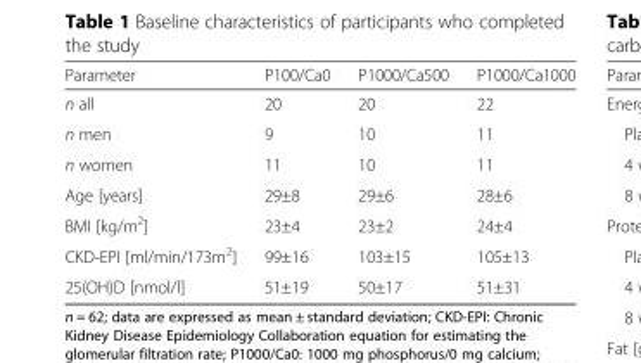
<table><thead><tr><td>Parameter</td><td>P100/Ca0</td><td>P1000/Ca500</td><td>P1000/Ca1000</td></tr></thead><tbody><tr><td>n all</td><td>20</td><td>20</td><td>22</td></tr><tr><td>n men</td><td>9</td><td>10</td><td>11</td></tr><tr><td>n women</td><td>11</td><td>10</td><td>11</td></tr><tr><td>Age [years]</td><td>29±8</td><td>29±6</td><td>28±6</td></tr><tr><td>BMI [kg/m<sup>2</sup>]</td><td>23±4</td><td>23±2</td><td>24±4</td></tr><tr><td>CKD-EPI [ml/min/173m<sup>2</sup>]</td><td>99±16</td><td>103±15</td><td>105±13</td></tr><tr><td>25(OH)D [nmol/l]</td><td>51±19</td><td>50±17</td><td>51±31</td></tr></tbody></table>